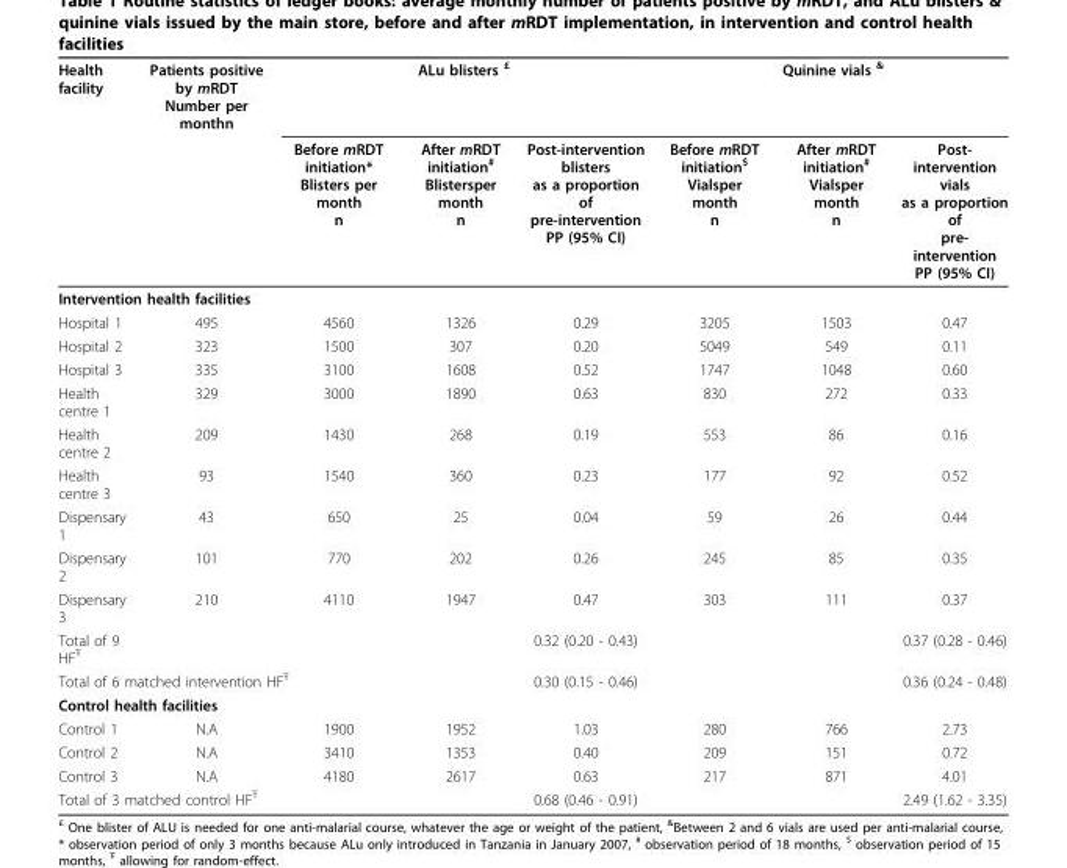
<table><thead><tr><td rowspan="2">Health facility</td><td rowspan="2">Patients positive by mRDT Number per monthn</td><td colspan="3">ALu blisters <sup>£</sup></td><td colspan="3">Quinine vials <sup>&amp;</sup></td></tr><tr><td>Before mRDT initiation* Blisters per month n</td><td>After mRDT initiation<sup>#</sup> Blistersper month n</td><td>Post-intervention blisters as a proportion of pre-intervention PP (95% CI)</td><td>Before mRDT initiation<sup>$</sup> Vialsper month n</td><td>After mRDT initiation<sup>#</sup> Vialsper month n</td><td>Post- intervention vials as a proportion of pre- intervention PP (95% CI)</td></tr></thead><tbody><tr><td colspan="8">Intervention health facilities</td></tr><tr><td>Hospital 1</td><td>495</td><td>4560</td><td>1326</td><td>0.29</td><td>3205</td><td>1503</td><td>0.47</td></tr><tr><td>Hospital 2</td><td>323</td><td>1500</td><td>307</td><td>0.20</td><td>5049</td><td>549</td><td>0.11</td></tr><tr><td>Hospital 3</td><td>335</td><td>3100</td><td>1608</td><td>0.52</td><td>1747</td><td>1048</td><td>0.60</td></tr><tr><td>Health centre 1</td><td>329</td><td>3000</td><td>1890</td><td>0.63</td><td>830</td><td>272</td><td>0.33</td></tr><tr><td>Health centre 2</td><td>209</td><td>1430</td><td>268</td><td>0.19</td><td>553</td><td>86</td><td>0.16</td></tr><tr><td>Health centre 3</td><td>93</td><td>1540</td><td>360</td><td>0.23</td><td>177</td><td>92</td><td>0.52</td></tr><tr><td>Dispensary 1</td><td>43</td><td>650</td><td>25</td><td>0.04</td><td>59</td><td>26</td><td>0.44</td></tr><tr><td>Dispensary 2</td><td>101</td><td>770</td><td>202</td><td>0.26</td><td>245</td><td>85</td><td>0.35</td></tr><tr><td>Dispensary 3</td><td>210</td><td>4110</td><td>1947</td><td>0.47</td><td>303</td><td>111</td><td>0.37</td></tr><tr><td>Total of 9 HF<sup>Ŧ</sup></td><td></td><td></td><td></td><td>0.32 (0.20 - 0.43)</td><td></td><td></td><td>0.37 (0.28 - 0.46)</td></tr><tr><td colspan="4">Total of 6 matched intervention HF<sup>Ŧ</sup></td><td>0.30 (0.15 - 0.46)</td><td></td><td></td><td>0.36 (0.24 - 0.48)</td></tr><tr><td colspan="8">Control health facilities</td></tr><tr><td>Control 1</td><td>N.A</td><td>1900</td><td>1952</td><td>1.03</td><td>280</td><td>766</td><td>2.73</td></tr><tr><td>Control 2</td><td>N.A</td><td>3410</td><td>1353</td><td>0.40</td><td>209</td><td>151</td><td>0.72</td></tr><tr><td>Control 3</td><td>N.A</td><td>4180</td><td>2617</td><td>0.63</td><td>217</td><td>871</td><td>4.01</td></tr><tr><td colspan="3">Total of 3 matched control HF<sup>Ŧ</sup></td><td></td><td>0.68 (0.46 - 0.91)</td><td></td><td></td><td>2.49 (1.62 - 3.35)</td></tr></tbody></table>